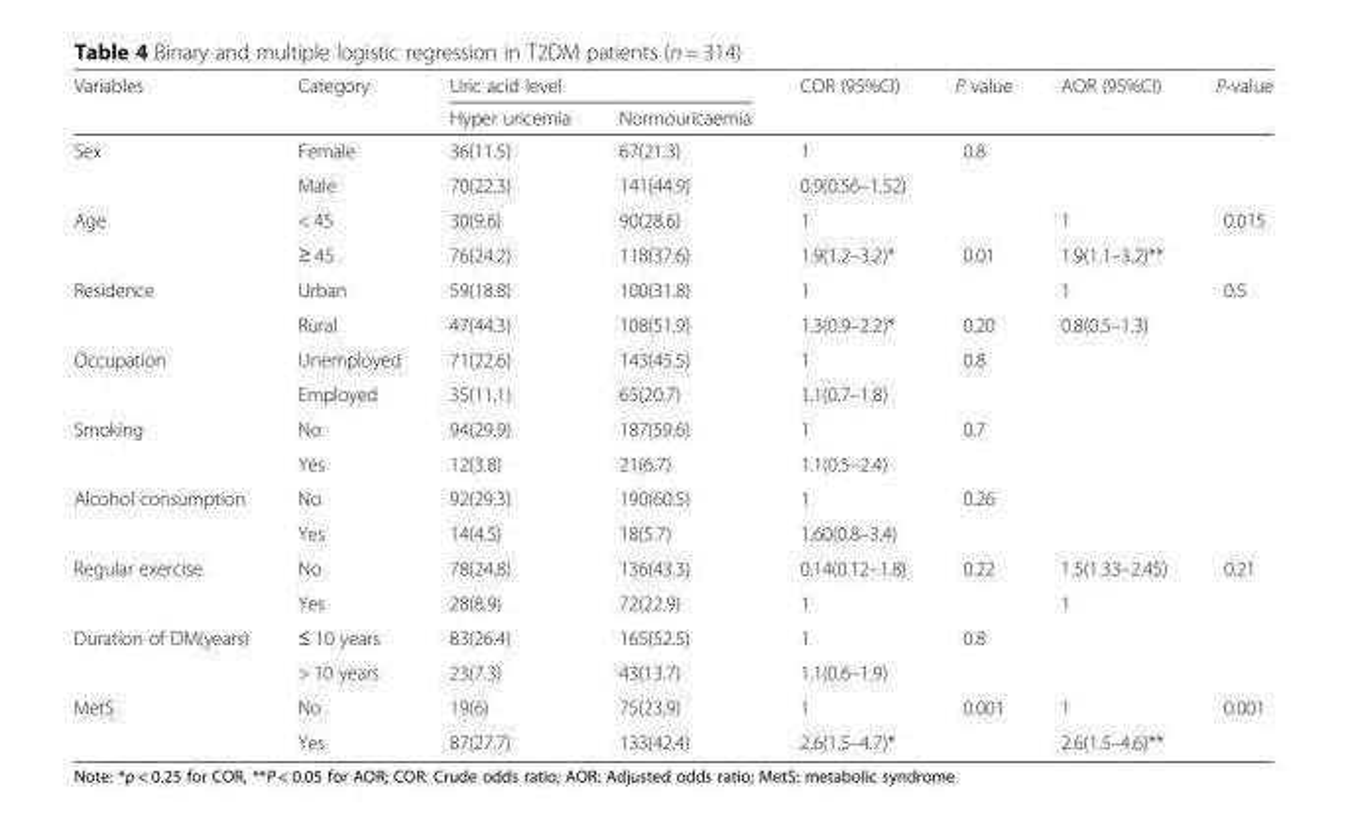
<table><thead><tr><td rowspan="2">Variables</td><td rowspan="2">Category</td><td colspan="2">Uric acid level</td><td rowspan="2">COR (95%CI)</td><td rowspan="2">P value</td><td rowspan="2">AOR (95%CI)</td><td rowspan="2">P-value</td></tr><tr><td>Hyper uricemia</td><td>Normouricaemia</td></tr></thead><tbody><tr><td rowspan="2">Sex</td><td>Female</td><td>36(11.5)</td><td>67(21.3)</td><td>1</td><td rowspan="2">0.8</td><td rowspan="2"></td><td rowspan="2"></td></tr><tr><td>Male</td><td>70(22.3)</td><td>141(44.9)</td><td>0.9(0.56–1.52)</td></tr><tr><td rowspan="2">Age</td><td>&lt; 45</td><td>30(9.6)</td><td>90(28.6)</td><td>1</td><td></td><td>1</td><td rowspan="2">0.015</td></tr><tr><td>≥ 45</td><td>76(24.2)</td><td>118(37.6)</td><td>1.9(1.2–3.2)*</td><td>0.01</td><td>1.9(1.1–3.2)**</td></tr><tr><td rowspan="2">Residence</td><td>Urban</td><td>59(18.8)</td><td>100(31.8)</td><td>1</td><td></td><td>1</td><td rowspan="2">0.5</td></tr><tr><td>Rural</td><td>47(44.3)</td><td>108(51.9)</td><td>1.3(0.9–2.2)*</td><td>0.20</td><td>0.8(0.5–1.3)</td></tr><tr><td rowspan="2">Occupation</td><td>Unemployed</td><td>71(22.6)</td><td>143(45.5)</td><td>1</td><td rowspan="2">0.8</td><td rowspan="2"></td><td rowspan="2"></td></tr><tr><td>Employed</td><td>35(11.1)</td><td>65(20.7)</td><td>1.1(0.7–1.8)</td></tr><tr><td rowspan="2">Smoking</td><td>No</td><td>94(29.9)</td><td>187(59.6)</td><td>1</td><td rowspan="2">0.7</td><td rowspan="2"></td><td rowspan="2"></td></tr><tr><td>Yes</td><td>12(3.8)</td><td>21(6.7)</td><td>1.1(0.5–2.4)</td></tr><tr><td rowspan="2">Alcohol consumption</td><td>No</td><td>92(29.3)</td><td>190(60.5)</td><td>1</td><td rowspan="2">0.26</td><td rowspan="2"></td><td rowspan="2"></td></tr><tr><td>Yes</td><td>14(4.5)</td><td>18(5.7)</td><td>1.60(0.8–3.4)</td></tr><tr><td rowspan="2">Regular exercise</td><td>No</td><td>78(24.8)</td><td>136(43.3)</td><td>0.14(0.12–1.8)</td><td rowspan="2">0.22</td><td>1.5(1.33–2.45)</td><td rowspan="2">0.21</td></tr><tr><td>Yes</td><td>28(8.9)</td><td>72(22.9)</td><td>1</td><td>1</td></tr><tr><td rowspan="2">Duration of DM(years)</td><td>≤ 10 years</td><td>83(26.4)</td><td>165(52.5)</td><td>1</td><td rowspan="2">0.8</td><td rowspan="2"></td><td rowspan="2"></td></tr><tr><td>&gt; 10 years</td><td>23(7.3)</td><td>43(13.7)</td><td>1.1(0.6–1.9)</td></tr><tr><td rowspan="2">MetS</td><td>No</td><td>19(6)</td><td>75(23.9)</td><td>1</td><td rowspan="2">0.001</td><td>1</td><td rowspan="2">0.001</td></tr><tr><td>Yes</td><td>87(27.7)</td><td>133(42.4)</td><td>2.6(1.5–4.7)*</td><td>2.6(1.5–4.6)**</td></tr></tbody></table>